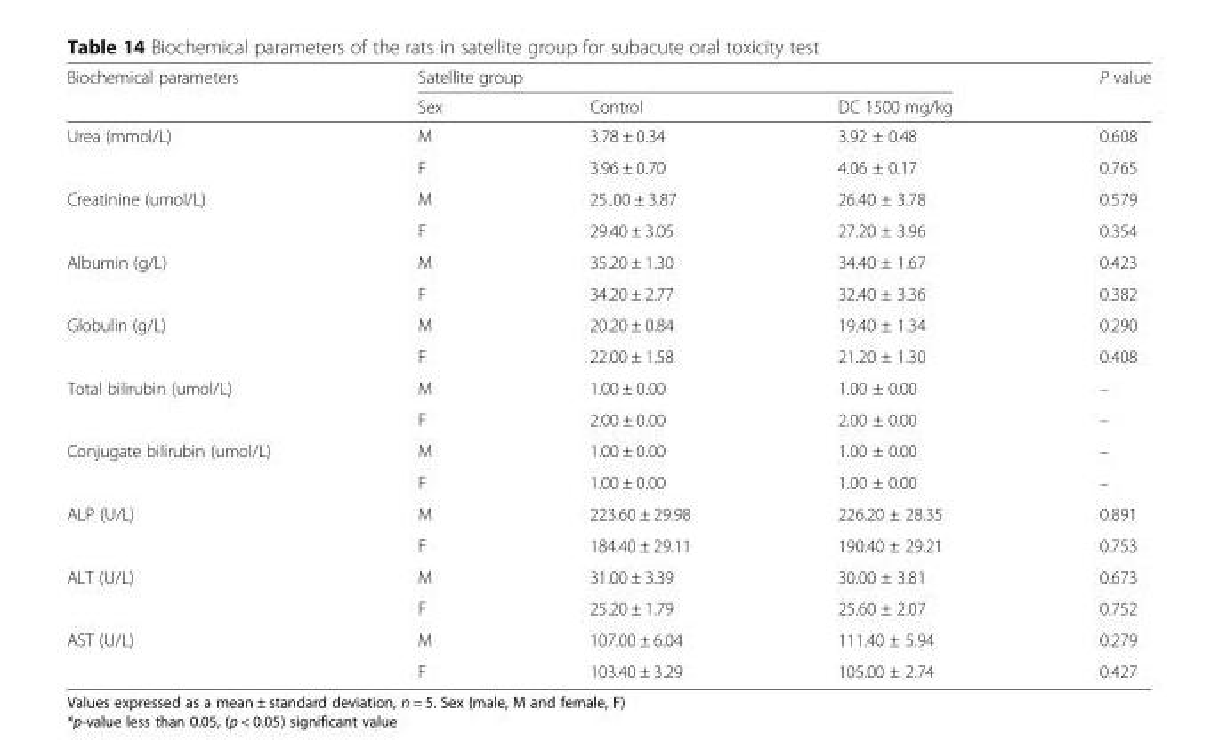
<table><thead><tr><td rowspan="2">Biochemical parameters</td><td colspan="3">Satellite group</td><td rowspan="2">P value</td></tr><tr><td>Sex</td><td>Control</td><td>DC 1500 mg/kg</td></tr></thead><tbody><tr><td rowspan="2">Urea (mmol/L)</td><td>M</td><td>3.78 ± 0.34</td><td>3.92 ± 0.48</td><td>0.608</td></tr><tr><td>F</td><td>3.96 ± 0.70</td><td>4.06 ± 0.17</td><td>0.765</td></tr><tr><td rowspan="2">Creatinine (umol/L)</td><td>M</td><td>25..00 ± 3.87</td><td>26.40 ± 3.78</td><td>0.579</td></tr><tr><td>F</td><td>29.40 ± 3.05</td><td>27.20 ± 3.96</td><td>0.354</td></tr><tr><td rowspan="2">Albumin (g/L)</td><td>M</td><td>35.20 ± 1.30</td><td>34.40 ± 1.67</td><td>0.423</td></tr><tr><td>F</td><td>34.20 ± 2.77</td><td>32.40 ± 3.36</td><td>0.382</td></tr><tr><td rowspan="2">Globulin (g/L)</td><td>M</td><td>20.20 ± 0.84</td><td>19.40 ± 1.34</td><td>0.290</td></tr><tr><td>F</td><td>22.00 ± 1.58</td><td>21.20 ± 1.30</td><td>0.408</td></tr><tr><td rowspan="2">Total bilirubin (umol/L)</td><td>M</td><td>1.00 ± 0.00</td><td>1.00 ± 0.00</td><td>–</td></tr><tr><td>F</td><td>2.00 ± 0.00</td><td>2.00 ± 0.00</td><td>–</td></tr><tr><td rowspan="2">Conjugate bilirubin (umol/L)</td><td>M</td><td>1.00 ± 0.00</td><td>1.00 ± 0.00</td><td>–</td></tr><tr><td>F</td><td>1.00 ± 0.00</td><td>1.00 ± 0.00</td><td>–</td></tr><tr><td rowspan="2">ALP (U/L)</td><td>M</td><td>223.60 ± 29.98</td><td>226.20 ± 28.35</td><td>0.891</td></tr><tr><td>F</td><td>184.40 ± 29.11</td><td>190.40 ± 29.21</td><td>0.753</td></tr><tr><td rowspan="2">ALT (U/L)</td><td>M</td><td>31.00 ± 3.39</td><td>30.00 ± 3.81</td><td>0.673</td></tr><tr><td>F</td><td>25.20 ± 1.79</td><td>25.60 ± 2.07</td><td>0.752</td></tr><tr><td rowspan="2">AST (U/L)</td><td>M</td><td>107.00 ± 6.04</td><td>111.40 ± 5.94</td><td>0.279</td></tr><tr><td>F</td><td>103.40 ± 3.29</td><td>105.00 ± 2.74</td><td>0.427</td></tr></tbody></table>